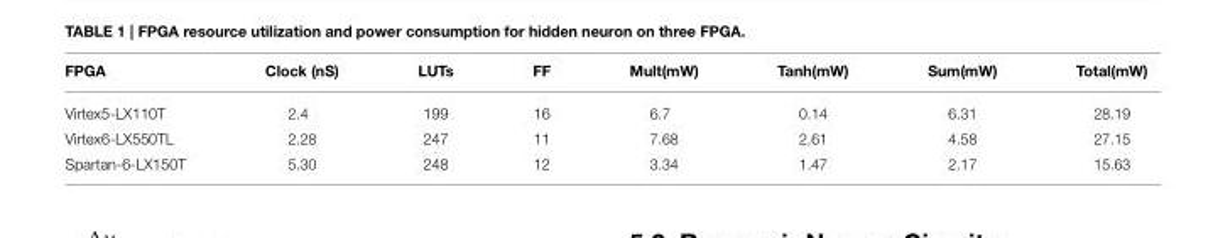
<table><thead><tr><td>FPGA</td><td>Clock (nS)</td><td>LUTs</td><td>FF</td><td>Mult(mW)</td><td>Tanh(mW)</td><td>Sum(mW)</td><td>Total(mW)</td></tr></thead><tbody><tr><td>Virtex5-LX110T</td><td>2.4</td><td>199</td><td>16</td><td>6.7</td><td>0.14</td><td>6.31</td><td>28.19</td></tr><tr><td>Virtex6-LX550TL</td><td>2.28</td><td>247</td><td>11</td><td>7.68</td><td>2.61</td><td>4.58</td><td>27.15</td></tr><tr><td>Spartan-6-LX150T</td><td>5.30</td><td>248</td><td>12</td><td>3.34</td><td>1.47</td><td>2.17</td><td>15.63</td></tr></tbody></table>